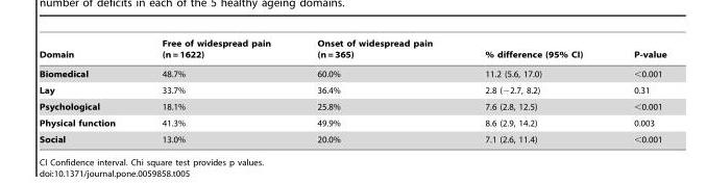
<table><thead><tr><td>Domain</td><td>Free of widespread pain (n = 1622)</td><td>Onset of widespread pain (n = 365)</td><td>% difference (95% CI)</td><td>P-value</td></tr></thead><tbody><tr><td>Biomedical</td><td>48.7%</td><td>60.0%</td><td>11.2 (5.6, 17.0)</td><td>&lt;0.001</td></tr><tr><td>Lay</td><td>33.7%</td><td>36.4%</td><td>2.8 (−2.7, 8.2)</td><td>0.31</td></tr><tr><td>Psychological</td><td>18.1%</td><td>25.8%</td><td>7.6 (2.8, 12.5)</td><td>&lt;0.001</td></tr><tr><td>Physical function</td><td>41.3%</td><td>49.9%</td><td>8.6 (2.9, 14.2)</td><td>0.003</td></tr><tr><td>Social</td><td>13.0%</td><td>20.0%</td><td>7.1 (2.6, 11.4)</td><td>&lt;0.001</td></tr></tbody></table>